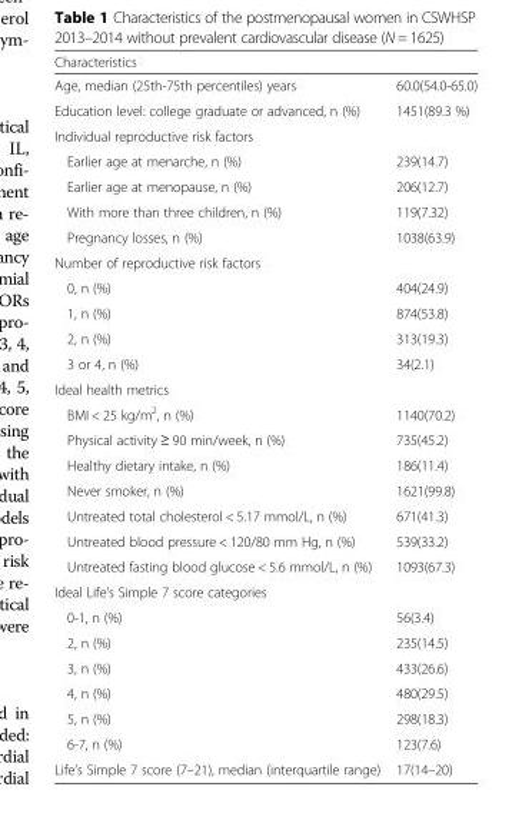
<table><thead><tr><td>Characteristics</td><td></td></tr></thead><tbody><tr><td>Age, median (25th-75th percentiles) years</td><td>60.0(54.0-65.0)</td></tr><tr><td>Education level: college graduate or advanced, n (%)</td><td>1451(89.3 %)</td></tr><tr><td colspan="2">Individual reproductive risk factors</td></tr><tr><td>Earlier age at menarche, n (%)</td><td>239(14.7)</td></tr><tr><td>Earlier age at menopause, n (%)</td><td>206(12.7)</td></tr><tr><td>With more than three children, n (%)</td><td>119(7.32)</td></tr><tr><td>Pregnancy losses, n (%)</td><td>1038(63.9)</td></tr><tr><td colspan="2">Number of reproductive risk factors</td></tr><tr><td>0, n (%)</td><td>404(24.9)</td></tr><tr><td>1, n (%)</td><td>874(53.8)</td></tr><tr><td>2, n (%)</td><td>313(19.3)</td></tr><tr><td>3 or 4, n (%)</td><td>34(2.1)</td></tr><tr><td colspan="2">Ideal health metrics</td></tr><tr><td>BMI &lt; 25 kg/m<sup>2</sup>, n (%)</td><td>1140(70.2)</td></tr><tr><td>Physical activity ≥ 90 min/week, n (%)</td><td>735(45.2)</td></tr><tr><td>Healthy dietary intake, n (%)</td><td>186(11.4)</td></tr><tr><td>Never smoker, n (%)</td><td>1621(99.8)</td></tr><tr><td>Untreated total cholesterol &lt; 5.17 mmol/L, n (%)</td><td>671(41.3)</td></tr><tr><td>Untreated blood pressure &lt; 120/80 mm Hg, n (%)</td><td>539(33.2)</td></tr><tr><td>Untreated fasting blood glucose &lt; 5.6 mmol/L, n (%)</td><td>1093(67.3)</td></tr><tr><td colspan="2">Ideal Life’s Simple 7 score categories</td></tr><tr><td>0-1, n (%)</td><td>56(3.4)</td></tr><tr><td>2, n (%)</td><td>235(14.5)</td></tr><tr><td>3, n (%)</td><td>433(26.6)</td></tr><tr><td>4, n (%)</td><td>480(29.5)</td></tr><tr><td>5, n (%)</td><td>298(18.3)</td></tr><tr><td>6-7, n (%)</td><td>123(7.6)</td></tr><tr><td>Life’s Simple 7 score (7–21), median (interquartile range)</td><td>17(14–20)</td></tr></tbody></table>